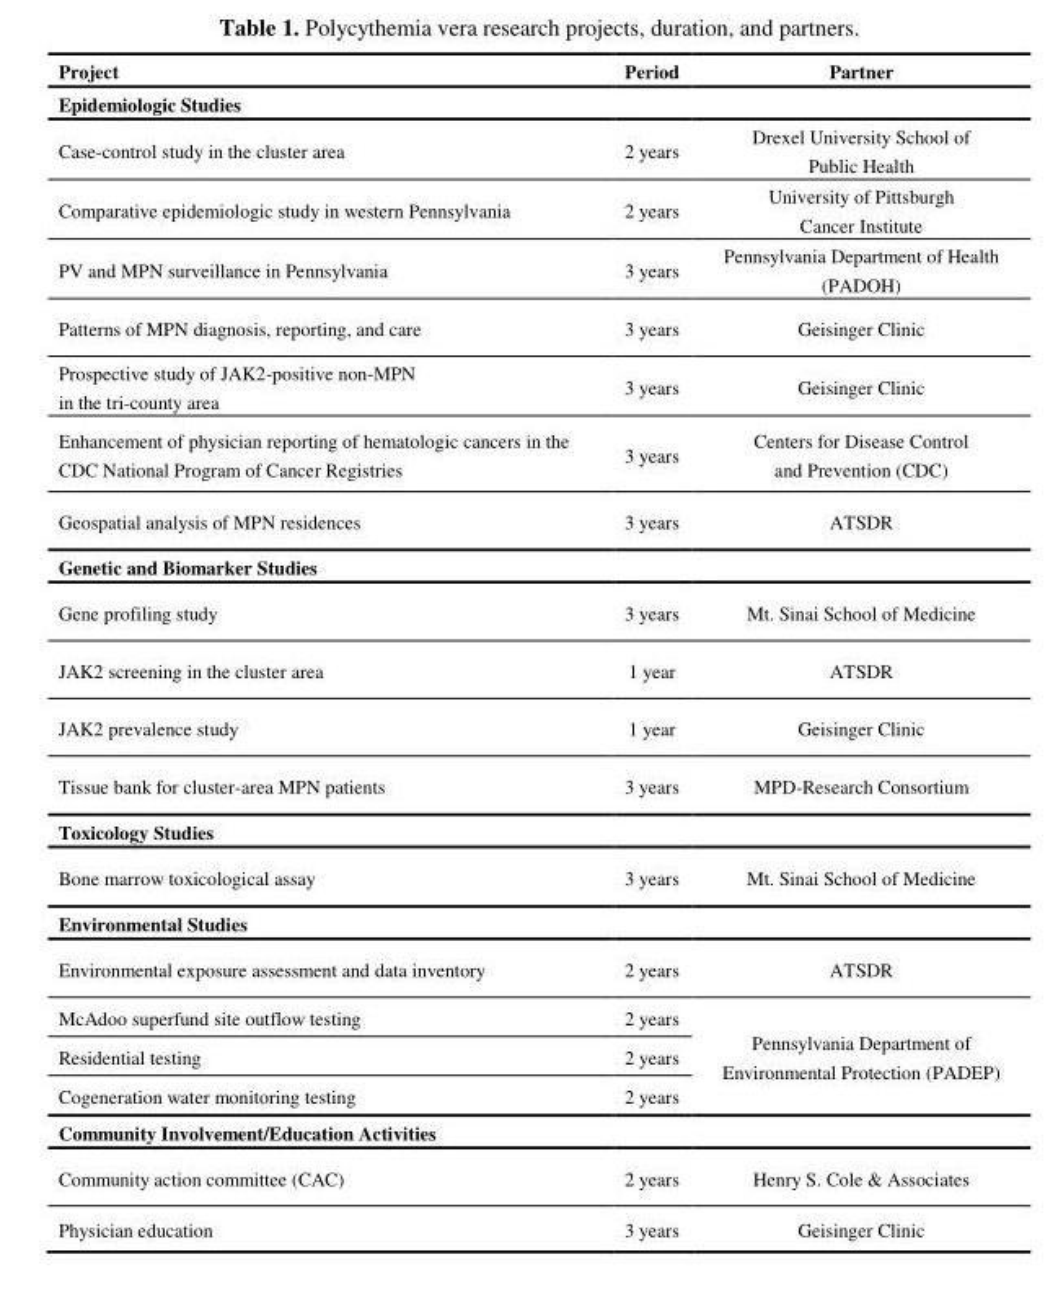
<table><thead><tr><td>Project</td><td>Period</td><td>Partner</td></tr></thead><tbody><tr><td colspan="3">Epidemiologic Studies</td></tr><tr><td>Case-control study in the cluster area</td><td>2 years</td><td>Drexel University School of Public Health</td></tr><tr><td>Comparative epidemiologic study in western Pennsylvania</td><td>2 years</td><td>University of Pittsburgh Cancer Institute</td></tr><tr><td>PV and MPN surveillance in Pennsylvania</td><td>3 years</td><td>Pennsylvania Department of Health (PADOH)</td></tr><tr><td>Patterns of MPN diagnosis, reporting, and care</td><td>3 years</td><td>Geisinger Clinic</td></tr><tr><td>Prospective study of JAK2-positive non-MPN in the tri-county area</td><td>3 years</td><td>Geisinger Clinic</td></tr><tr><td>Enhancement of physician reporting of hematologic cancers in the CDC National Program of Cancer Registries</td><td>3 years</td><td>Centers for Disease Control and Prevention (CDC)</td></tr><tr><td>Geospatial analysis of MPN residences</td><td>3 years</td><td>ATSDR</td></tr><tr><td colspan="3">Genetic and Biomarker Studies</td></tr><tr><td>Gene profiling study</td><td>3 years</td><td>Mt. Sinai School of Medicine</td></tr><tr><td>JAK2 screening in the cluster area</td><td>1 year</td><td>ATSDR</td></tr><tr><td>JAK2 prevalence study</td><td>1 year</td><td>Geisinger Clinic</td></tr><tr><td>Tissue bank for cluster-area MPN patients</td><td>3 years</td><td>MPD-Research Consortium</td></tr><tr><td colspan="3">Toxicology Studies</td></tr><tr><td>Bone marrow toxicological assay</td><td>3 years</td><td>Mt. Sinai School of Medicine</td></tr><tr><td colspan="3">Environmental Studies</td></tr><tr><td>Environmental exposure assessment and data inventory</td><td>2 years</td><td>ATSDR</td></tr><tr><td>McAdoo superfund site outflow testing</td><td>2 years</td><td rowspan="3">Pennsylvania Department of Environmental Protection (PADEP)</td></tr><tr><td>Residential testing</td><td>2 years</td></tr><tr><td>Cogeneration water monitoring testing</td><td>2 years</td></tr><tr><td colspan="3">Community Involvement/Education Activities</td></tr><tr><td>Community action committee (CAC)</td><td>2 years</td><td>Henry S. Cole &amp; Associates</td></tr><tr><td>Physician education</td><td>3 years</td><td>Geisinger Clinic</td></tr></tbody></table>